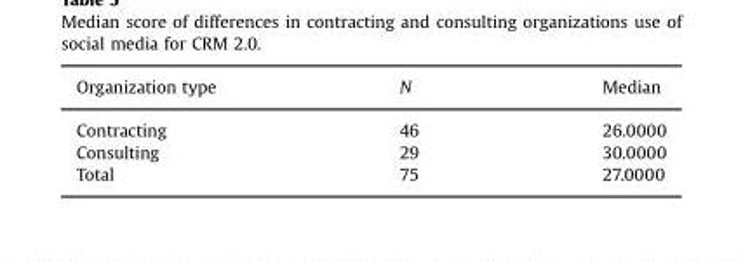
<table><thead><tr><td>Organization type</td><td>N</td><td>Median</td></tr></thead><tbody><tr><td>Contracting</td><td>46</td><td>26.0000</td></tr><tr><td>Consulting</td><td>29</td><td>30.0000</td></tr><tr><td>Total</td><td>75</td><td>27.0000</td></tr></tbody></table>